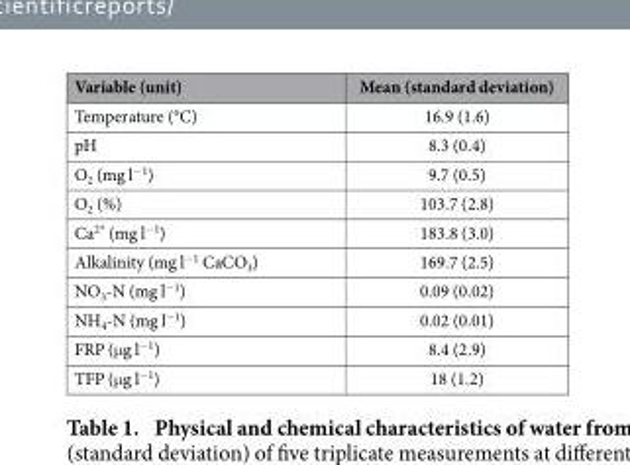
<table><thead><tr><td>Variable (unit)</td><td>Mean (standard deviation)</td></tr></thead><tbody><tr><td>Temperature (°C)</td><td>16.9 (1.6)</td></tr><tr><td>pH</td><td>8.3 (0.4)</td></tr><tr><td>O<sub>2</sub> (mg l<sup>−1</sup>)</td><td>9.7 (0.5)</td></tr><tr><td>O<sub>2</sub> (%)</td><td>103.7 (2.8)</td></tr><tr><td>Ca<sup>2*</sup> (mg l<sup>−1</sup>)</td><td>183.8 (3.0)</td></tr><tr><td>Alkalinity (mg l<sup>−1</sup> CaCO<sub>3</sub>)</td><td>169.7 (2.5)</td></tr><tr><td>NO<sub>3</sub>-N (mg l<sup>−1</sup>)</td><td>0.09 (0.02)</td></tr><tr><td>NH<sub>4</sub>-N (mg l<sup>−1</sup>)</td><td>0.02 (0.01)</td></tr><tr><td>FRP (μ g l<sup>−1</sup>)</td><td>8.4 (2.9)</td></tr><tr><td>TFP (μ g l<sup>−1</sup>)</td><td>18 (1.2)</td></tr></tbody></table>